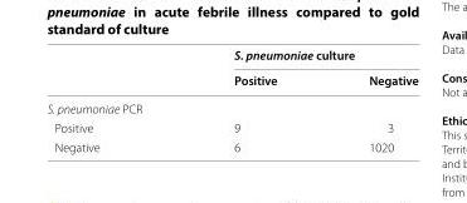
<table><thead><tr><td rowspan="2"></td><td colspan="2">S. pneumoniae culture</td></tr><tr><td>Positive</td><td>Negative</td></tr></thead><tbody><tr><td colspan="3">S. pneumoniae PCR</td></tr><tr><td>Positive</td><td>9</td><td>3</td></tr><tr><td>Negative</td><td>6</td><td>1020</td></tr></tbody></table>